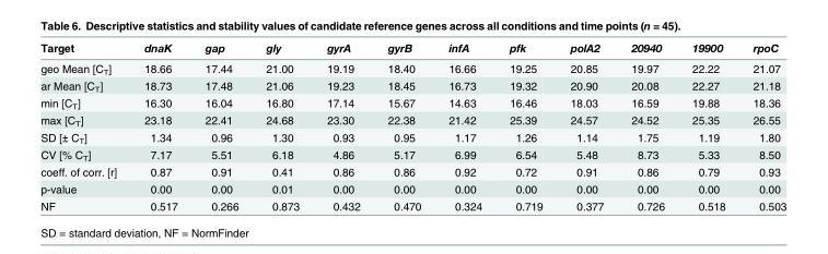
<table><thead><tr><td>Target</td><td>dnaK</td><td>gap</td><td>gly</td><td>gyrA</td><td>gyrB</td><td>infA</td><td>pfk</td><td>polA2</td><td>20940</td><td>19900</td><td>rpoC</td></tr></thead><tbody><tr><td>geo Mean [C<sub>T</sub>]</td><td>18.66</td><td>17.44</td><td>21.00</td><td>19.19</td><td>18.40</td><td>16.66</td><td>19.25</td><td>20.85</td><td>19.97</td><td>22.22</td><td>21.07</td></tr><tr><td>ar Mean [C<sub>T</sub>]</td><td>18.73</td><td>17.48</td><td>21.06</td><td>19.23</td><td>18.45</td><td>16.73</td><td>19.32</td><td>20.90</td><td>20.08</td><td>22.27</td><td>21.18</td></tr><tr><td>min [C<sub>T</sub>]</td><td>16.30</td><td>16.04</td><td>16.80</td><td>17.14</td><td>15.67</td><td>14.63</td><td>16.46</td><td>18.03</td><td>16.59</td><td>19.88</td><td>18.36</td></tr><tr><td>max [C<sub>T</sub>]</td><td>23.18</td><td>22.41</td><td>24.68</td><td>23.30</td><td>22.38</td><td>21.42</td><td>25.39</td><td>24.57</td><td>24.52</td><td>25.35</td><td>26.55</td></tr><tr><td>SD [± C<sub>T</sub>]</td><td>1.34</td><td>0.96</td><td>1.30</td><td>0.93</td><td>0.95</td><td>1.17</td><td>1.26</td><td>1.14</td><td>1.75</td><td>1.19</td><td>1.80</td></tr><tr><td>CV [% C<sub>T</sub>]</td><td>7.17</td><td>5.51</td><td>6.18</td><td>4.86</td><td>5.17</td><td>6.99</td><td>6.54</td><td>5.48</td><td>8.73</td><td>5.33</td><td>8.50</td></tr><tr><td>coeff. of corr. [r]</td><td>0.87</td><td>0.91</td><td>0.41</td><td>0.86</td><td>0.86</td><td>0.92</td><td>0.72</td><td>0.91</td><td>0.86</td><td>0.79</td><td>0.93</td></tr><tr><td>p-value</td><td>0.00</td><td>0.00</td><td>0.01</td><td>0.00</td><td>0.00</td><td>0.00</td><td>0.00</td><td>0.00</td><td>0.00</td><td>0.00</td><td>0.00</td></tr><tr><td>NF</td><td>0.517</td><td>0.266</td><td>0.873</td><td>0.432</td><td>0.470</td><td>0.324</td><td>0.719</td><td>0.377</td><td>0.726</td><td>0.518</td><td>0.503</td></tr></tbody></table>